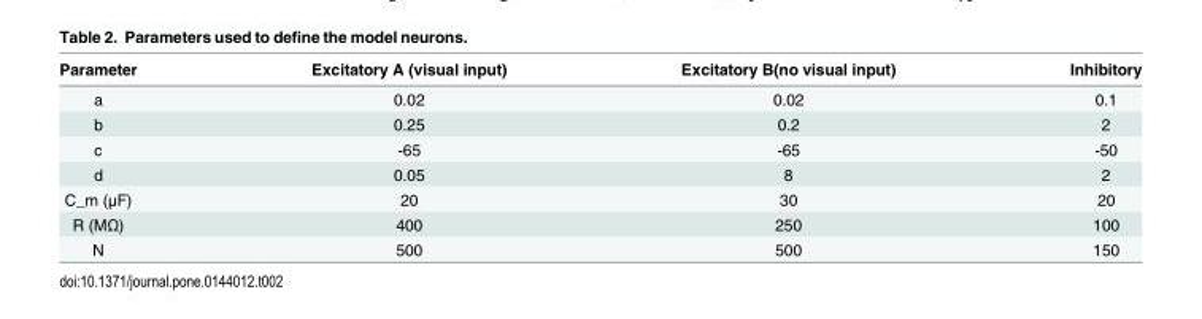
<table><thead><tr><td>Parameter</td><td>Excitatory A (visual input)</td><td>Excitatory B(no visual input)</td><td>Inhibitory</td></tr></thead><tbody><tr><td>a</td><td>0.02</td><td>0.02</td><td>0.1</td></tr><tr><td>b</td><td>0.25</td><td>0.2</td><td>2</td></tr><tr><td>c</td><td>-65</td><td>-65</td><td>-50</td></tr><tr><td>d</td><td>0.05</td><td>8</td><td>2</td></tr><tr><td>C_m (μF)</td><td>20</td><td>30</td><td>20</td></tr><tr><td>R (MΩ)</td><td>400</td><td>250</td><td>100</td></tr><tr><td>N</td><td>500</td><td>500</td><td>150</td></tr></tbody></table>